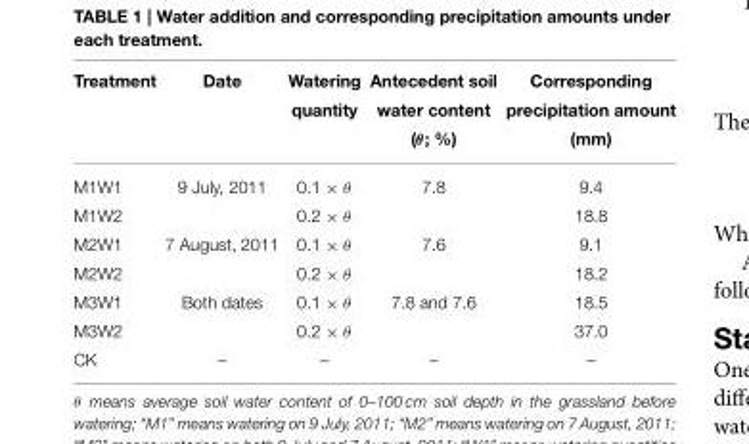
<table><thead><tr><td>Treatment</td><td>Date</td><td>Watering quantity</td><td>Antecedent soil water content (θ; %)</td><td>Corresponding precipitation amount (mm)</td></tr></thead><tbody><tr><td>M1W1</td><td>9 July, 2011</td><td>0.1 × θ</td><td>7.8</td><td>9.4</td></tr><tr><td>M1W2</td><td></td><td>0.2 × θ</td><td></td><td>18.8</td></tr><tr><td>M2W1</td><td>7 August, 2011</td><td>0.1 × θ</td><td>7.6</td><td>9.1</td></tr><tr><td>M2W2</td><td></td><td>0.2 × θ</td><td></td><td>18.2</td></tr><tr><td>M3W1</td><td>Both dates</td><td>0.1 × θ</td><td>7.8 and 7.6</td><td>18.5</td></tr><tr><td>M3W2</td><td></td><td>0.2 × θ</td><td></td><td>37.0</td></tr><tr><td>CK</td><td>–</td><td>–</td><td>–</td><td>–</td></tr></tbody></table>